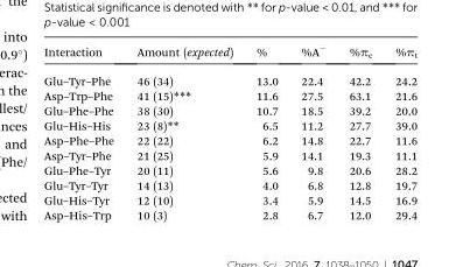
<table><thead><tr><td>Interaction</td><td>Amount (expected)</td><td>%</td><td>%A<sup>–</sup></td><td>%π<sub>c</sub></td><td>%π<sub>t</sub></td></tr></thead><tbody><tr><td>Glu–Tyr–Phe</td><td>46 (34)</td><td>13.0</td><td>22.4</td><td>42.2</td><td>24.2</td></tr><tr><td>Asp–Trp–Phe</td><td>41 (15)***</td><td>11.6</td><td>27.5</td><td>63.1</td><td>21.6</td></tr><tr><td>Glu–Phe–Phe</td><td>38 (30)</td><td>10.7</td><td>18.5</td><td>39.2</td><td>20.0</td></tr><tr><td>Glu–His–His</td><td>23 (8)**</td><td>6.5</td><td>11.2</td><td>27.7</td><td>39.0</td></tr><tr><td>Asp–Phe–Phe</td><td>22 (22)</td><td>6.2</td><td>14.8</td><td>22.7</td><td>11.6</td></tr><tr><td>Asp–Tyr–Phe</td><td>21 (25)</td><td>5.9</td><td>14.1</td><td>19.3</td><td>11.1</td></tr><tr><td>Glu–Phe–Tyr</td><td>20 (11)</td><td>5.6</td><td>9.8</td><td>20.6</td><td>28.2</td></tr><tr><td>Glu–Tyr–Tyr</td><td>14 (13)</td><td>4.0</td><td>6.8</td><td>12.8</td><td>19.7</td></tr><tr><td>Glu–His–Tyr</td><td>12 (10)</td><td>3.4</td><td>5.9</td><td>14.5</td><td>16.9</td></tr><tr><td>Asp–His–Trp</td><td>10 (3)</td><td>2.8</td><td>6.7</td><td>12.0</td><td>29.4</td></tr></tbody></table>